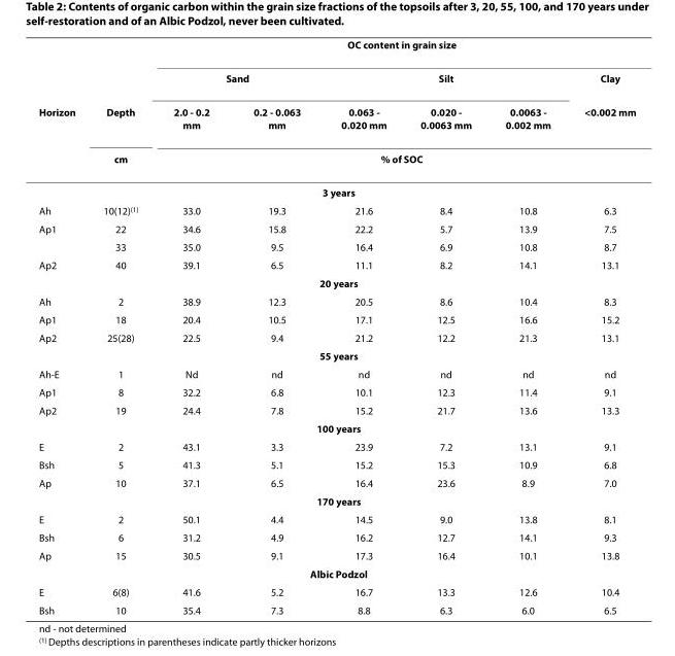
<table><thead><tr><td rowspan="4">Horizon</td><td rowspan="4">Depth cm</td><td colspan="6">OC content in grain size</td></tr><tr><td colspan="2">Sand</td><td colspan="3">Silt</td><td rowspan="2">Clay &lt;0.002 mm</td></tr><tr><td>2.0 - 0.2 mm</td><td>0.2 - 0.063 mm</td><td>0.063 - 0.020 mm</td><td>0.020 - 0.0063 mm</td><td>0.0063 - 0.002 mm</td></tr><tr><td colspan="6">% of SOC</td></tr></thead><tbody><tr><td colspan="8">3 years</td></tr><tr><td>Ah</td><td>10(12)<sup>(1)</sup></td><td>33.0</td><td>19.3</td><td>21.6</td><td>8.4</td><td>10.8</td><td>6.3</td></tr><tr><td rowspan="2">Ap1</td><td>22</td><td>34.6</td><td>15.8</td><td>22.2</td><td>5.7</td><td>13.9</td><td>7.5</td></tr><tr><td>33</td><td>35.0</td><td>9.5</td><td>16.4</td><td>6.9</td><td>10.8</td><td>8.7</td></tr><tr><td>Ap2</td><td>40</td><td>39.1</td><td>6.5</td><td>11.1</td><td>8.2</td><td>14.1</td><td>13.1</td></tr><tr><td colspan="8">20 years</td></tr><tr><td>Ah</td><td>2</td><td>38.9</td><td>12.3</td><td>20.5</td><td>8.6</td><td>10.4</td><td>8.3</td></tr><tr><td>Ap1</td><td>18</td><td>20.4</td><td>10.5</td><td>17.1</td><td>12.5</td><td>16.6</td><td>15.2</td></tr><tr><td>Ap2</td><td>25(28)</td><td>22.5</td><td>9.4</td><td>21.2</td><td>12.2</td><td>21.3</td><td>13.1</td></tr><tr><td colspan="8">55 years</td></tr><tr><td>Ah-E</td><td>1</td><td>Nd</td><td>nd</td><td>nd</td><td>nd</td><td>nd</td><td>nd</td></tr><tr><td>Ap1</td><td>8</td><td>32.2</td><td>6.8</td><td>10.1</td><td>12.3</td><td>11.4</td><td>9.1</td></tr><tr><td>Ap2</td><td>19</td><td>24.4</td><td>7.8</td><td>15.2</td><td>21.7</td><td>13.6</td><td>13.3</td></tr><tr><td colspan="8">100 years</td></tr><tr><td>E</td><td>2</td><td>43.1</td><td>3.3</td><td>23.9</td><td>7.2</td><td>13.1</td><td>9.1</td></tr><tr><td>Bsh</td><td>5</td><td>41.3</td><td>5.1</td><td>15.2</td><td>15.3</td><td>10.9</td><td>6.8</td></tr><tr><td>Ap</td><td>10</td><td>37.1</td><td>6.5</td><td>16.4</td><td>23.6</td><td>8.9</td><td>7.0</td></tr><tr><td colspan="8">170 years</td></tr><tr><td>E</td><td>2</td><td>50.1</td><td>4.4</td><td>14.5</td><td>9.0</td><td>13.8</td><td>8.1</td></tr><tr><td>Bsh</td><td>6</td><td>31.2</td><td>4.9</td><td>16.2</td><td>12.7</td><td>14.1</td><td>9.3</td></tr><tr><td>Ap</td><td>15</td><td>30.5</td><td>9.1</td><td>17.3</td><td>16.4</td><td>10.1</td><td>13.8</td></tr><tr><td colspan="8">Albic Podzol</td></tr><tr><td>E</td><td>6(8)</td><td>41.6</td><td>5.2</td><td>16.7</td><td>13.3</td><td>12.6</td><td>10.4</td></tr><tr><td>Bsh</td><td>10</td><td>35.4</td><td>7.3</td><td>8.8</td><td>6.3</td><td>6.0</td><td>6.5</td></tr></tbody></table>